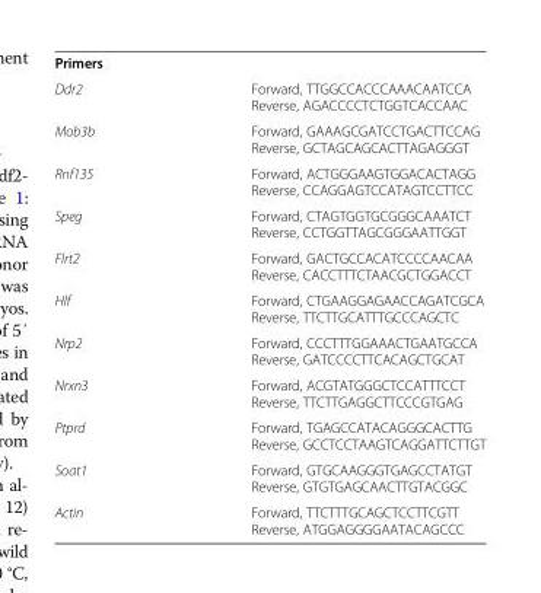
<table><tbody><tr><td colspan="2">Primers</td></tr><tr><td>Ddr2</td><td>Forward, TTGGCCACCCAAACAATCCA Reverse, AGACCCCTCTGGTCACCAAC</td></tr><tr><td>Mob3b</td><td>Forward, GAAAGCGATCCTGACTTCCAG Reverse, GCTAGCAGCACTTAGAGGGT</td></tr><tr><td>Rnf135</td><td>Forward, ACTGGGAAGTGGACACTAGG Reverse, CCAGGAGTCCATAGTCCTTCC</td></tr><tr><td>Speg</td><td>Forward, CTAGTGGTGCGGGCAAATCT Reverse, CCTGGTTAGCGGGAATTGGT</td></tr><tr><td>Flrt2</td><td>Forward, GACTGCCACATCCCCAACAA Reverse, CACCTTTCTAACGCTGGACCT</td></tr><tr><td>Hlf</td><td>Forward, CTGAAGGAGAACCAGATCGCA Reverse, TTCTTGCATTTGCCCAGCTC</td></tr><tr><td>Nrp2</td><td>Forward, CCCTTTGGAAACTGAATGCCA Reverse, GATCCCCTTCACAGCTGCAT</td></tr><tr><td>Nrxn3</td><td>Forward, ACGTATGGGCTCCATTTCCT Reverse, TTCTTGAGGCTTCCCGTGAG</td></tr><tr><td>Ptprd</td><td>Forward, TGAGCCATACAGGGCACTTG Reverse, GCCTCCTAAGTCAGGATTCTTGT</td></tr><tr><td>Soat1</td><td>Forward, GTGCAAGGGTGAGCCTATGT Reverse, GTGTGAGCAACTTGTACGGC</td></tr><tr><td>Actin</td><td>Forward, TTCTTTGCAGCTCCTTCGTT Reverse, ATGGAGGGGAATACAGCCC</td></tr></tbody></table>